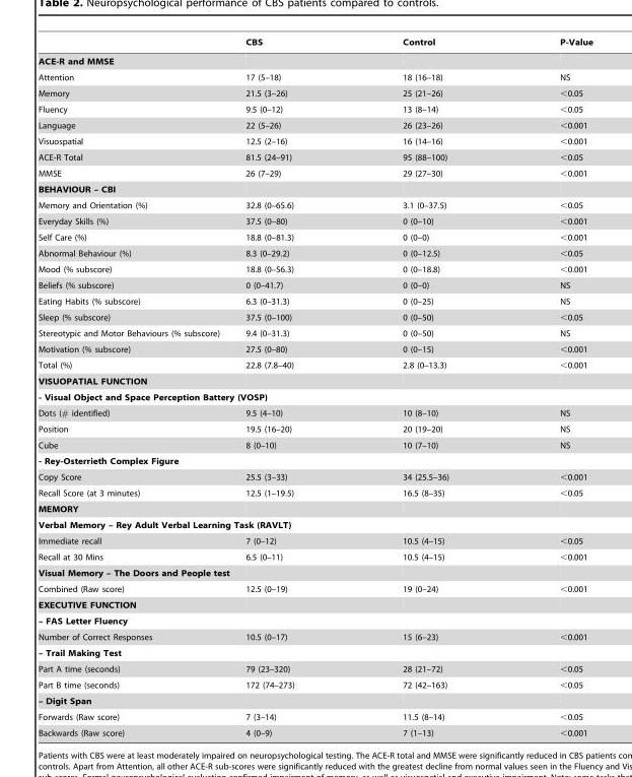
<table><thead><tr><td></td><td>CBS</td><td>Control</td><td>P-Value</td></tr></thead><tbody><tr><td colspan="4">ACE-R and MMSE</td></tr><tr><td>Attention</td><td>17 (5–18)</td><td>18 (16–18)</td><td>NS</td></tr><tr><td>Memory</td><td>21.5 (3–26)</td><td>25 (21–26)</td><td>&lt;0.05</td></tr><tr><td>Fluency</td><td>9.5 (0–12)</td><td>13 (8–14)</td><td>&lt;0.05</td></tr><tr><td>Language</td><td>22 (5–26)</td><td>26 (23–26)</td><td>&lt;0.001</td></tr><tr><td>Visuospatial</td><td>12.5 (2–16)</td><td>16 (14–16)</td><td>&lt;0.001</td></tr><tr><td>ACE-R Total</td><td>81.5 (24–91)</td><td>95 (88–100)</td><td>&lt;0.05</td></tr><tr><td>MMSE</td><td>26 (7–29)</td><td>29 (27–30)</td><td>&lt;0.001</td></tr><tr><td colspan="4">BEHAVIOUR – CBI</td></tr><tr><td>Memory and Orientation (%)</td><td>32.8 (0–65.6)</td><td>3.1 (0–37.5)</td><td>&lt;0.05</td></tr><tr><td>Everyday Skills (%)</td><td>37.5 (0–80)</td><td>0 (0–10)</td><td>&lt;0.001</td></tr><tr><td>Self Care (%)</td><td>18.8 (0–81.3)</td><td>0 (0–0)</td><td>&lt;0.001</td></tr><tr><td>Abnormal Behaviour (%)</td><td>8.3 (0–29.2)</td><td>0 (0–12.5)</td><td>&lt;0.05</td></tr><tr><td>Mood (% subscore)</td><td>18.8 (0–56.3)</td><td>0 (0–18.8)</td><td>&lt;0.001</td></tr><tr><td>Beliefs (% subscore)</td><td>0 (0–41.7)</td><td>0 (0–0)</td><td>NS</td></tr><tr><td>Eating Habits (% subscore)</td><td>6.3 (0–31.3)</td><td>0 (0–25)</td><td>NS</td></tr><tr><td>Sleep (% subscore)</td><td>37.5 (0–100)</td><td>0 (0–50)</td><td>&lt;0.05</td></tr><tr><td>Stereotypic and Motor Behaviours (% subscore)</td><td>9.4 (0–31.3)</td><td>0 (0–50)</td><td>NS</td></tr><tr><td>Motivation (% subscore)</td><td>27.5 (0–80)</td><td>0 (0–15)</td><td>&lt;0.001</td></tr><tr><td>Total (%)</td><td>22.8 (7.8–40)</td><td>2.8 (0–13.3)</td><td>&lt;0.001</td></tr><tr><td colspan="4">VISUOPATIAL FUNCTION</td></tr><tr><td colspan="4">- Visual Object and Space Perception Battery (VOSP)</td></tr><tr><td>Dots (# identified)</td><td>9.5 (4–10)</td><td>10 (8–10)</td><td>NS</td></tr><tr><td>Position</td><td>19.5 (16–20)</td><td>20 (19–20)</td><td>NS</td></tr><tr><td>Cube</td><td>8 (0–10)</td><td>10 (7–10)</td><td>NS</td></tr><tr><td colspan="4">- Rey-Osterrieth Complex Figure</td></tr><tr><td>Copy Score</td><td>25.5 (3–33)</td><td>34 (25.5–36)</td><td>&lt;0.001</td></tr><tr><td>Recall Score (at 3 minutes)</td><td>12.5 (1–19.5)</td><td>16.5 (8–35)</td><td>&lt;0.05</td></tr><tr><td colspan="4">MEMORY</td></tr><tr><td colspan="4">Verbal Memory – Rey Adult Verbal Learning Task (RAVLT)</td></tr><tr><td>Immediate recall</td><td>7 (0–12)</td><td>10.5 (4–15)</td><td>&lt;0.05</td></tr><tr><td>Recall at 30 Mins</td><td>6.5 (0–11)</td><td>10.5 (4–15)</td><td>&lt;0.001</td></tr><tr><td colspan="4">Visual Memory – The Doors and People test</td></tr><tr><td>Combined (Raw score)</td><td>12.5 (0–19)</td><td>19 (0–24)</td><td>&lt;0.001</td></tr><tr><td colspan="4">EXECUTIVE FUNCTION</td></tr><tr><td colspan="4">– FAS Letter Fluency</td></tr><tr><td>Number of Correct Responses</td><td>10.5 (0–17)</td><td>15 (6–23)</td><td>&lt;0.001</td></tr><tr><td colspan="4">– Trail Making Test</td></tr><tr><td>Part A time (seconds)</td><td>79 (23–320)</td><td>28 (21–72)</td><td>&lt;0.05</td></tr><tr><td>Part B time (seconds)</td><td>172 (74–273)</td><td>72 (42–163)</td><td>&lt;0.05</td></tr><tr><td colspan="4">– Digit Span</td></tr><tr><td>Forwards (Raw score)</td><td>7 (3–14)</td><td>11.5 (8–14)</td><td>&lt;0.05</td></tr><tr><td>Backwards (Raw score)</td><td>4 (0–9)</td><td>7 (1–13)</td><td>&lt;0.001</td></tr></tbody></table>